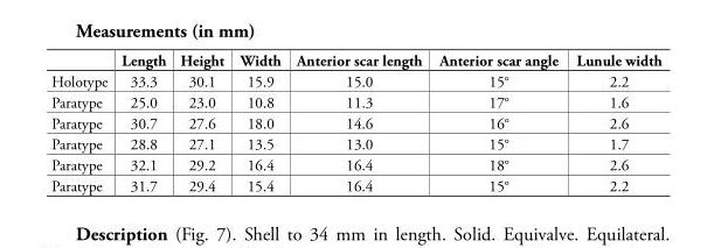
<table><thead><tr><td></td><td>Length</td><td>Height</td><td>Width</td><td>Anterior scar length</td><td>Anterior scar angle</td><td>Lunule width</td></tr></thead><tbody><tr><td>Holotype</td><td>33.3</td><td>30.1</td><td>15.9</td><td>15.0</td><td>15°</td><td>2.2</td></tr><tr><td>Paratype</td><td>25.0</td><td>23.0</td><td>10.8</td><td>11.3</td><td>17°</td><td>1.6</td></tr><tr><td>Paratype</td><td>30.7</td><td>27.6</td><td>18.0</td><td>14.6</td><td>16°</td><td>2.6</td></tr><tr><td>Paratype</td><td>28.8</td><td>27.1</td><td>13.5</td><td>13.0</td><td>15°</td><td>1.7</td></tr><tr><td>Paratype</td><td>32.1</td><td>29.2</td><td>16.4</td><td>16.4</td><td>18°</td><td>2.6</td></tr><tr><td>Paratype</td><td>31.7</td><td>29.4</td><td>15.4</td><td>16.4</td><td>15°</td><td>2.2</td></tr></tbody></table>